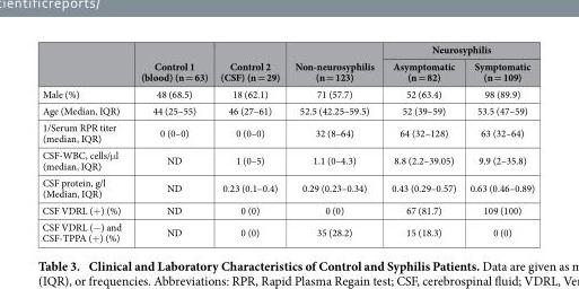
<table><thead><tr><td rowspan="2"></td><td rowspan="2">Control 1 (blood) (n = 63)</td><td rowspan="2">Control 2 (CSF) (n = 29)</td><td rowspan="2">Non-neurosyphilis (n = 123)</td><td colspan="2">Neurosyphilis</td></tr><tr><td>Asymptomatic (n = 82)</td><td>Symptomatic (n = 109)</td></tr></thead><tbody><tr><td>Male (%)</td><td>48 (68.5)</td><td>18 (62.1)</td><td>71 (57.7)</td><td>52 (63.4)</td><td>98 (89.9)</td></tr><tr><td>Age (Median, IQR)</td><td>44 (25–55)</td><td>46 (27–61)</td><td>52.5 (42.25–59.5)</td><td>52 (39–59)</td><td>53.5 (47–59)</td></tr><tr><td>1/Serum RPR titer (median, IQR)</td><td>0 (0–0)</td><td>0 (0–0)</td><td>32 (8–64)</td><td>64 (32–128)</td><td>63 (32–64)</td></tr><tr><td>CSF-WBC, cells/μ l (median, IQR)</td><td>ND</td><td>1 (0–5)</td><td>1.1 (0–4.3)</td><td>8.8 (2.2–39.05)</td><td>9.9 (2–35.8)</td></tr><tr><td>CSF protein, g/l (Median, IQR)</td><td>ND</td><td>0.23 (0.1–0.4)</td><td>0.29 (0.23–0.34)</td><td>0.43 (0.29–0.57)</td><td>0.63 (0.46–0.89)</td></tr><tr><td>CSF VDRL (+ ) (%)</td><td>ND</td><td>0 (0)</td><td>0 (0)</td><td>67 (81.7)</td><td>109 (100)</td></tr><tr><td>CSF VDRL (− ) and CSF-TPPA (+ ) (%)</td><td>ND</td><td>0 (0)</td><td>35 (28.2)</td><td>15 (18.3)</td><td>0 (0)</td></tr></tbody></table>